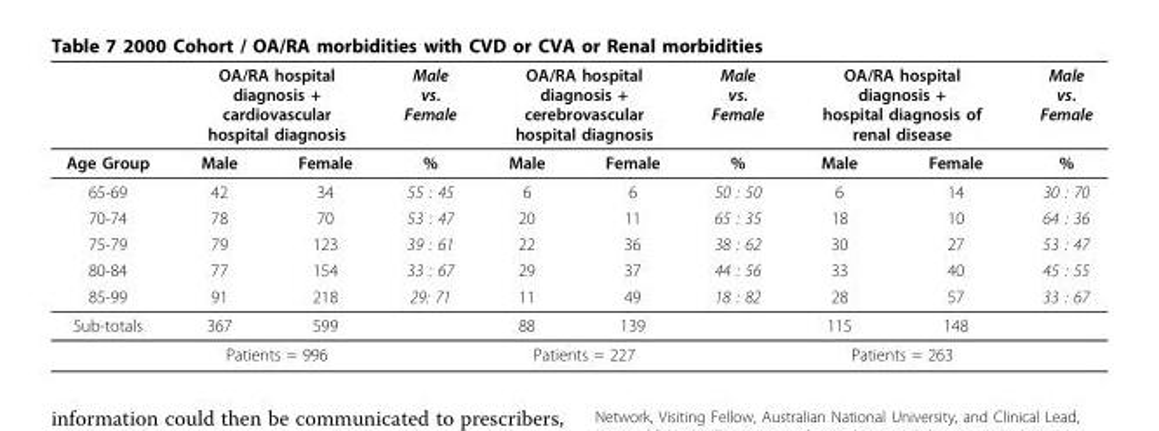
<table><thead><tr><td rowspan="2">Age Group</td><td colspan="2">OA/RA hospital diagnosis + cardiovascular hospital diagnosis</td><td rowspan="2">Male vs. Female %</td><td colspan="2">OA/RA hospital diagnosis + cerebrovascular hospital diagnosis</td><td rowspan="2">Male vs. Female %</td><td colspan="2">OA/RA hospital diagnosis + hospital diagnosis of renal disease</td><td rowspan="2">Male vs. Female %</td></tr><tr><td>Male</td><td>Female</td><td>Male</td><td>Female</td><td>Male</td><td>Female</td></tr></thead><tbody><tr><td>65-69</td><td>42</td><td>34</td><td>55 : 45</td><td>6</td><td>6</td><td>50 : 50</td><td>6</td><td>14</td><td>30 : 70</td></tr><tr><td>70-74</td><td>78</td><td>70</td><td>53 : 47</td><td>20</td><td>11</td><td>65 : 35</td><td>18</td><td>10</td><td>64 : 36</td></tr><tr><td>75-79</td><td>79</td><td>123</td><td>39 : 61</td><td>22</td><td>36</td><td>38 : 62</td><td>30</td><td>27</td><td>53 : 47</td></tr><tr><td>80-84</td><td>77</td><td>154</td><td>33 : 67</td><td>29</td><td>37</td><td>44 : 56</td><td>33</td><td>40</td><td>45 : 55</td></tr><tr><td>85-99</td><td>91</td><td>218</td><td>29: 71</td><td>11</td><td>49</td><td>18 : 82</td><td>28</td><td>57</td><td>33 : 67</td></tr><tr><td rowspan="2">Sub-totals</td><td>367</td><td>599</td><td></td><td>88</td><td>139</td><td></td><td>115</td><td>148</td><td></td></tr><tr><td colspan="2">Patients = 996</td><td></td><td colspan="2">Patients = 227</td><td></td><td colspan="2">Patients = 263</td><td></td></tr></tbody></table>